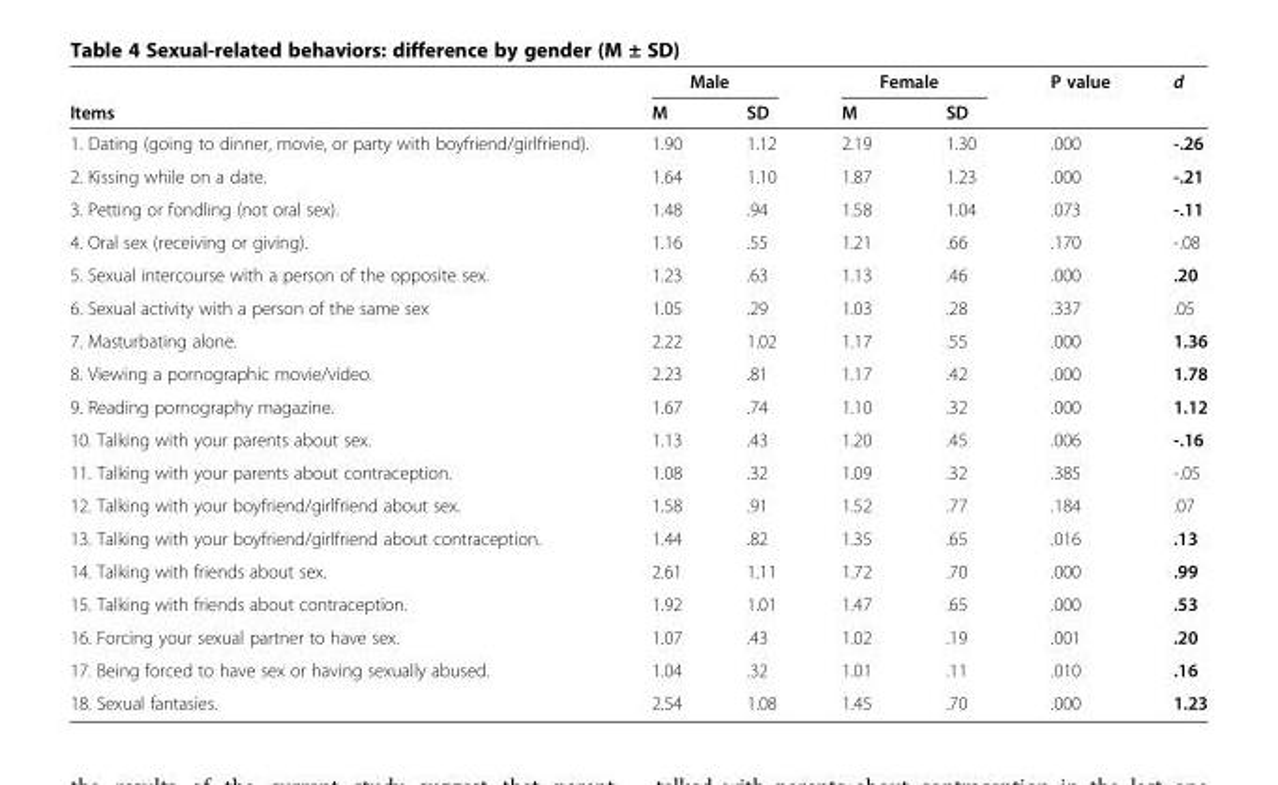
<table><thead><tr><td rowspan="2">Items</td><td colspan="2">Male</td><td colspan="2">Female</td><td rowspan="2">P value</td><td rowspan="2">d</td></tr><tr><td>M</td><td>SD</td><td>M</td><td>SD</td></tr></thead><tbody><tr><td>1. Dating (going to dinner, movie, or party with boyfriend/girlfriend).</td><td>1.90</td><td>1.12</td><td>2.19</td><td>1.30</td><td>.000</td><td>-.26</td></tr><tr><td>2. Kissing while on a date.</td><td>1.64</td><td>1.10</td><td>1.87</td><td>1.23</td><td>.000</td><td>-.21</td></tr><tr><td>3. Petting or fondling (not oral sex).</td><td>1.48</td><td>.94</td><td>1.58</td><td>1.04</td><td>.073</td><td>-.11</td></tr><tr><td>4. Oral sex (receiving or giving).</td><td>1.16</td><td>.55</td><td>1.21</td><td>.66</td><td>.170</td><td>-.08</td></tr><tr><td>5. Sexual intercourse with a person of the opposite sex.</td><td>1.23</td><td>.63</td><td>1.13</td><td>.46</td><td>.000</td><td>.20</td></tr><tr><td>6. Sexual activity with a person of the same sex</td><td>1.05</td><td>.29</td><td>1.03</td><td>.28</td><td>.337</td><td>.05</td></tr><tr><td>7. Masturbating alone.</td><td>2.22</td><td>1.02</td><td>1.17</td><td>.55</td><td>.000</td><td>1.36</td></tr><tr><td>8. Viewing a pornographic movie/video.</td><td>2.23</td><td>.81</td><td>1.17</td><td>.42</td><td>.000</td><td>1.78</td></tr><tr><td>9. Reading pornography magazine.</td><td>1.67</td><td>.74</td><td>1.10</td><td>.32</td><td>.000</td><td>1.12</td></tr><tr><td>10. Talking with your parents about sex.</td><td>1.13</td><td>.43</td><td>1.20</td><td>.45</td><td>.006</td><td>-.16</td></tr><tr><td>11. Talking with your parents about contraception.</td><td>1.08</td><td>.32</td><td>1.09</td><td>.32</td><td>.385</td><td>-.05</td></tr><tr><td>12. Talking with your boyfriend/girlfriend about sex.</td><td>1.58</td><td>.91</td><td>1.52</td><td>.77</td><td>.184</td><td>.07</td></tr><tr><td>13. Talking with your boyfriend/girlfriend about contraception.</td><td>1.44</td><td>.82</td><td>1.35</td><td>.65</td><td>.016</td><td>.13</td></tr><tr><td>14. Talking with friends about sex.</td><td>2.61</td><td>1.11</td><td>1.72</td><td>.70</td><td>.000</td><td>.99</td></tr><tr><td>15. Talking with friends about contraception.</td><td>1.92</td><td>1.01</td><td>1.47</td><td>.65</td><td>.000</td><td>.53</td></tr><tr><td>16. Forcing your sexual partner to have sex.</td><td>1.07</td><td>.43</td><td>1.02</td><td>.19</td><td>.001</td><td>.20</td></tr><tr><td>17. Being forced to have sex or having sexually abused.</td><td>1.04</td><td>.32</td><td>1.01</td><td>.11</td><td>.010</td><td>.16</td></tr><tr><td>18. Sexual fantasies.</td><td>2.54</td><td>1.08</td><td>1.45</td><td>.70</td><td>.000</td><td>1.23</td></tr></tbody></table>